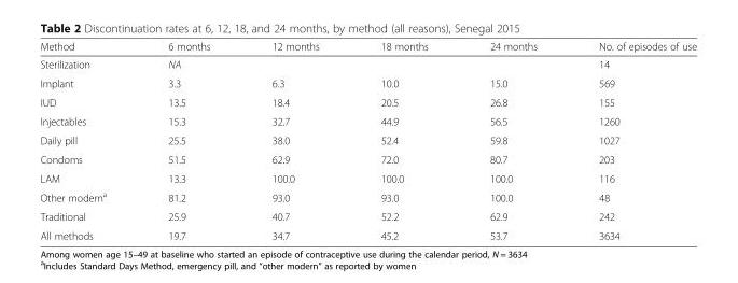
<table><thead><tr><td>Method</td><td>6 months</td><td>12 months</td><td>18 months</td><td>24 months</td><td>No. of episodes of use</td></tr></thead><tbody><tr><td>Sterilization</td><td colspan="4">NA</td><td>14</td></tr><tr><td>Implant</td><td>3.3</td><td>6.3</td><td>10.0</td><td>15.0</td><td>569</td></tr><tr><td>IUD</td><td>13.5</td><td>18.4</td><td>20.5</td><td>26.8</td><td>155</td></tr><tr><td>Injectables</td><td>15.3</td><td>32.7</td><td>44.9</td><td>56.5</td><td>1260</td></tr><tr><td>Daily pill</td><td>25.5</td><td>38.0</td><td>52.4</td><td>59.8</td><td>1027</td></tr><tr><td>Condoms</td><td>51.5</td><td>62.9</td><td>72.0</td><td>80.7</td><td>203</td></tr><tr><td>LAM</td><td>13.3</td><td>100.0</td><td>100.0</td><td>100.0</td><td>116</td></tr><tr><td>Other modern<sup>a</sup></td><td>81.2</td><td>93.0</td><td>93.0</td><td>100.0</td><td>48</td></tr><tr><td>Traditional</td><td>25.9</td><td>40.7</td><td>52.2</td><td>62.9</td><td>242</td></tr><tr><td>All methods</td><td>19.7</td><td>34.7</td><td>45.2</td><td>53.7</td><td>3634</td></tr></tbody></table>